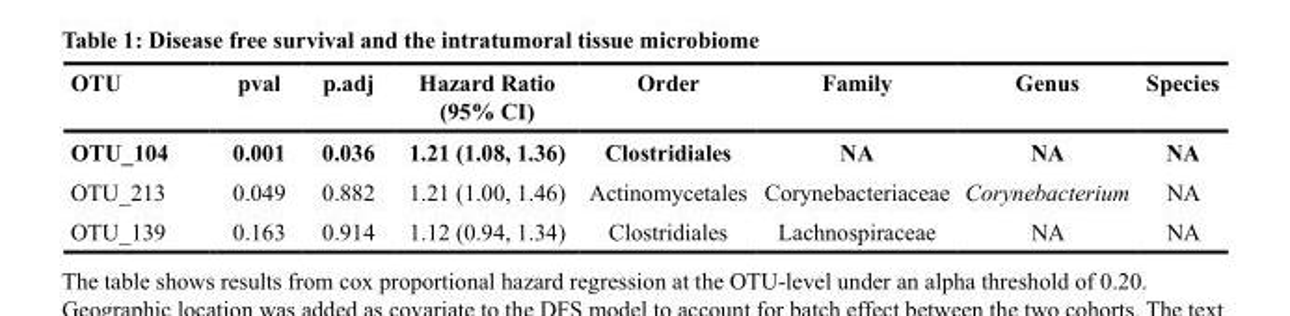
<table><thead><tr><td>OTU</td><td>pval</td><td>p.adj</td><td>Hazard Ratio (95% CI)</td><td>Order</td><td>Family</td><td>Genus</td><td>Species</td></tr></thead><tbody><tr><td>OTU_104</td><td>0.001</td><td>0.036</td><td>1.21 (1.08, 1.36)</td><td>Clostridiales</td><td>NA</td><td>NA</td><td>NA</td></tr><tr><td>OTU_213</td><td>0.049</td><td>0.882</td><td>1.21 (1.00, 1.46)</td><td>Actinomycetales</td><td>Corynebacteriaceae</td><td>Corynebacterium</td><td>NA</td></tr><tr><td>OTU_139</td><td>0.163</td><td>0.914</td><td>1.12 (0.94, 1.34)</td><td>Clostridiales</td><td>Lachnospiraceae</td><td>NA</td><td>NA</td></tr></tbody></table>